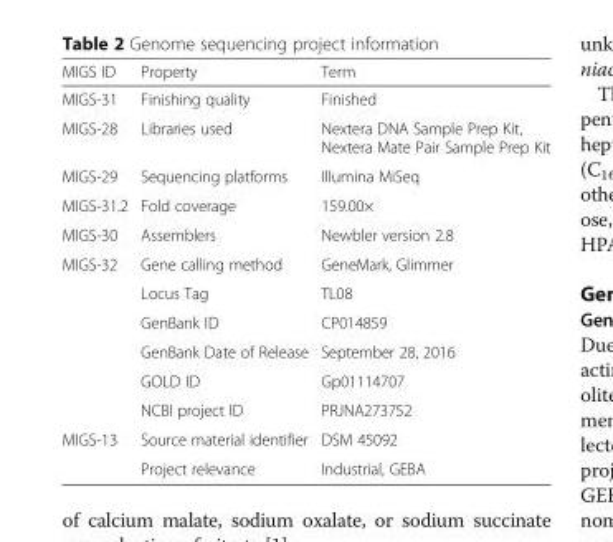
<table><thead><tr><td>MIGS ID</td><td>Property</td><td>Term</td></tr></thead><tbody><tr><td>MIGS-31</td><td>Finishing quality</td><td>Finished</td></tr><tr><td>MIGS-28</td><td>Libraries used</td><td>Nextera DNA Sample Prep Kit, Nextera Mate Pair Sample Prep Kit</td></tr><tr><td>MIGS-29</td><td>Sequencing platforms</td><td>Illumina MiSeq</td></tr><tr><td>MIGS-31.2</td><td>Fold coverage</td><td>159.00×</td></tr><tr><td>MIGS-30</td><td>Assemblers</td><td>Newbler version 2.8</td></tr><tr><td rowspan="6">MIGS-32</td><td>Gene calling method</td><td>GeneMark, Glimmer</td></tr><tr><td>Locus Tag</td><td>TL08</td></tr><tr><td>GenBank ID</td><td>CP014859</td></tr><tr><td>GenBank Date of Release</td><td>September 28, 2016</td></tr><tr><td>GOLD ID</td><td>Gp01114707</td></tr><tr><td>NCBI project ID</td><td>PRJNA273752</td></tr><tr><td rowspan="2">MIGS-13</td><td>Source material identifier</td><td>DSM 45092</td></tr><tr><td>Project relevance</td><td>Industrial, GEBA</td></tr></tbody></table>